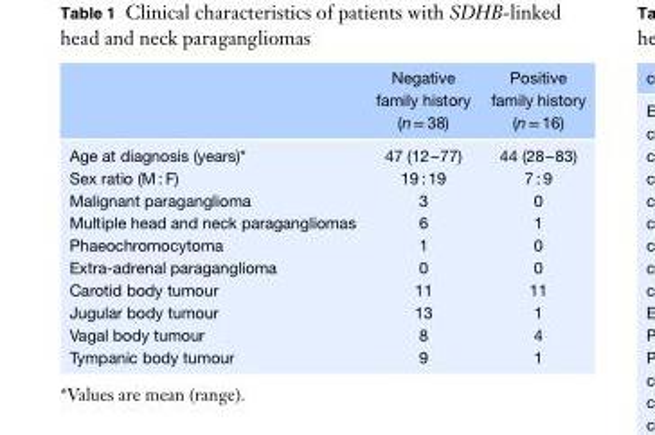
<table><thead><tr><td></td><td>Negative family history (n = 38)</td><td>Positive family history (n = 16)</td></tr></thead><tbody><tr><td>Age at diagnosis (years)*</td><td>47 (12–77)</td><td>44 (28–83)</td></tr><tr><td>Sex ratio (M : F)</td><td>19 : 19</td><td>7 : 9</td></tr><tr><td>Malignant paraganglioma</td><td>3</td><td>0</td></tr><tr><td>Multiple head and neck paragangliomas</td><td>6</td><td>1</td></tr><tr><td>Phaeochromocytoma</td><td>1</td><td>0</td></tr><tr><td>Extra-adrenal paraganglioma</td><td>0</td><td>0</td></tr><tr><td>Carotid body tumour</td><td>11</td><td>11</td></tr><tr><td>Jugular body tumour</td><td>13</td><td>1</td></tr><tr><td>Vagal body tumour</td><td>8</td><td>4</td></tr><tr><td>Tympanic body tumour</td><td>9</td><td>1</td></tr></tbody></table>